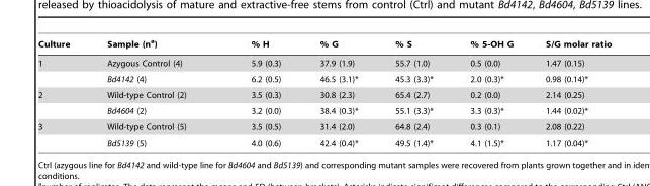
<table><thead><tr><td>Culture</td><td>Sample (n<sup>a</sup>)</td><td>% H</td><td>% G</td><td>% S</td><td>% 5-OH G</td><td>S/G molar ratio</td></tr></thead><tbody><tr><td rowspan="2">1</td><td>Azygous Control (4)</td><td>5.9 (0.3)</td><td>37.9 (1.9)</td><td>55.7 (1.0)</td><td>0.5 (0.0)</td><td>1.47 (0.15)</td></tr><tr><td>Bd4142 (4)</td><td>6.2 (0.5)</td><td>46.5 (3.1)*</td><td>45.3 (3.3)*</td><td>2.0 (0.3)*</td><td>0.98 (0.14)*</td></tr><tr><td rowspan="2">2</td><td>Wild-type Control (2)</td><td>3.5 (0.3)</td><td>30.8 (2.3)</td><td>65.4 (2.7)</td><td>0.2 (0.0)</td><td>2.14 (0.25)</td></tr><tr><td>Bd4604 (2)</td><td>3.2 (0.0)</td><td>38.4 (0.3)*</td><td>55.1 (3.3)*</td><td>3.3 (0.3)*</td><td>1.44 (0.02)*</td></tr><tr><td rowspan="2">3</td><td>Wild-type Control (5)</td><td>3.5 (0.5)</td><td>31.4 (2.0)</td><td>64.8 (2.4)</td><td>0.3 (0.1)</td><td>2.08 (0.22)</td></tr><tr><td>Bd5139 (5)</td><td>4.0 (0.6)</td><td>42.4 (0.4)*</td><td>49.5 (1.4)*</td><td>4.1 (1.5)*</td><td>1.17 (0.04)*</td></tr></tbody></table>